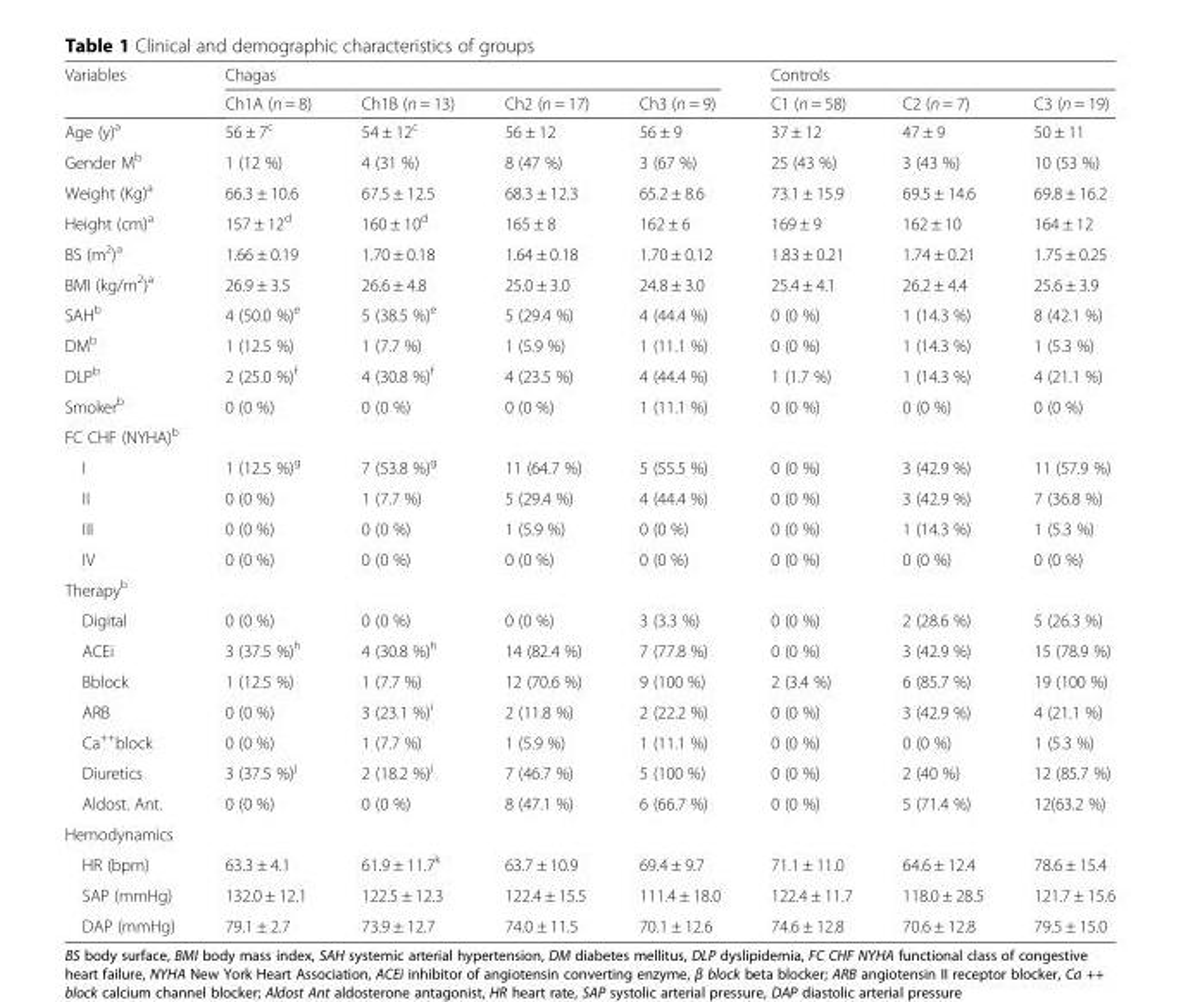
<table><thead><tr><td rowspan="2">Variables</td><td colspan="4">Chagas</td><td colspan="3">Controls</td></tr><tr><td>Ch1A (n = 8)</td><td>Ch1B (n = 13)</td><td>Ch2 (n = 17)</td><td>Ch3 (n = 9)</td><td>C1 (n = 58)</td><td>C2 (n = 7)</td><td>C3 (n = 19)</td></tr></thead><tbody><tr><td>Age (y)<sup>a</sup></td><td>56 ± 7<sup>c</sup></td><td>54 ± 12<sup>c</sup></td><td>56 ± 12</td><td>56 ± 9</td><td>37 ± 12</td><td>47 ± 9</td><td>50 ± 11</td></tr><tr><td>Gender M<sup>b</sup></td><td>1 (12 %)</td><td>4 (31 %)</td><td>8 (47 %)</td><td>3 (67 %)</td><td>25 (43 %)</td><td>3 (43 %)</td><td>10 (53 %)</td></tr><tr><td>Weight (Kg)<sup>a</sup></td><td>66.3 ± 10.6</td><td>67.5 ± 12.5</td><td>68.3 ± 12.3</td><td>65.2 ± 8.6</td><td>73.1 ± 15.9</td><td>69.5 ± 14.6</td><td>69.8 ± 16.2</td></tr><tr><td>Height (cm)<sup>a</sup></td><td>157 ± 12<sup>d</sup></td><td>160 ± 10<sup>d</sup></td><td>165 ± 8</td><td>162 ± 6</td><td>169 ± 9</td><td>162 ± 10</td><td>164 ± 12</td></tr><tr><td>BS (m<sup>2</sup>)<sup>a</sup></td><td>1.66 ± 0.19</td><td>1.70 ± 0.18</td><td>1.64 ± 0.18</td><td>1.70 ± 0.12</td><td>1.83 ± 0.21</td><td>1.74 ± 0.21</td><td>1.75 ± 0.25</td></tr><tr><td>BMI (kg/m<sup>2</sup>)<sup>a</sup></td><td>26.9 ± 3.5</td><td>26.6 ± 4.8</td><td>25.0 ± 3.0</td><td>24.8 ± 3.0</td><td>25.4 ± 4.1</td><td>26.2 ± 4.4</td><td>25.6 ± 3.9</td></tr><tr><td>SAH<sup>b</sup></td><td>4 (50.0 %)<sup>e</sup></td><td>5 (38.5 %)<sup>e</sup></td><td>5 (29.4 %)</td><td>4 (44.4 %)</td><td>0 (0 %)</td><td>1 (14.3 %)</td><td>8 (42.1 %)</td></tr><tr><td>DM<sup>b</sup></td><td>1 (12.5 %)</td><td>1 (7.7 %)</td><td>1 (5.9 %)</td><td>1 (11.1 %)</td><td>0 (0 %)</td><td>1 (14.3 %)</td><td>1 (5.3 %)</td></tr><tr><td>DLP<sup>b</sup></td><td>2 (25.0 %)<sup>f</sup></td><td>4 (30.8 %)<sup>f</sup></td><td>4 (23.5 %)</td><td>4 (44.4 %)</td><td>1 (1.7 %)</td><td>1 (14.3 %)</td><td>4 (21.1 %)</td></tr><tr><td>Smoker<sup>b</sup></td><td>0 (0 %)</td><td>0 (0 %)</td><td>0 (0 %)</td><td>1 (11.1 %)</td><td>0 (0 %)</td><td>0 (0 %)</td><td>0 (0 %)</td></tr><tr><td colspan="8">FC CHF (NYHA)<sup>b</sup></td></tr><tr><td>I</td><td>1 (12.5 %)<sup>g</sup></td><td>7 (53.8 %)<sup>g</sup></td><td>11 (64.7 %)</td><td>5 (55.5 %)</td><td>0 (0 %)</td><td>3 (42.9 %)</td><td>11 (57.9 %)</td></tr><tr><td>II</td><td>0 (0 %)</td><td>1 (7.7 %)</td><td>5 (29.4 %)</td><td>4 (44.4 %)</td><td>0 (0 %)</td><td>3 (42.9 %)</td><td>7 (36.8 %)</td></tr><tr><td>III</td><td>0 (0 %)</td><td>0 (0 %)</td><td>1 (5.9 %)</td><td>0 (0 %)</td><td>0 (0 %)</td><td>1 (14.3 %)</td><td>1 (5.3 %)</td></tr><tr><td>IV</td><td>0 (0 %)</td><td>0 (0 %)</td><td>0 (0 %)</td><td>0 (0 %)</td><td>0 (0 %)</td><td>0 (0 %)</td><td>0 (0 %)</td></tr><tr><td colspan="8">Therapy<sup>b</sup></td></tr><tr><td>Digital</td><td>0 (0 %)</td><td>0 (0 %)</td><td>0 (0 %)</td><td>3 (3.3 %)</td><td>0 (0 %)</td><td>2 (28.6 %)</td><td>5 (26.3 %)</td></tr><tr><td>ACEi</td><td>3 (37.5 %)<sup>h</sup></td><td>4 (30.8 %)<sup>h</sup></td><td>14 (82.4 %)</td><td>7 (77.8 %)</td><td>0 (0 %)</td><td>3 (42.9 %)</td><td>15 (78.9 %)</td></tr><tr><td>Bblock</td><td>1 (12.5 %)</td><td>1 (7.7 %)</td><td>12 (70.6 %)</td><td>9 (100 %)</td><td>2 (3.4 %)</td><td>6 (85.7 %)</td><td>19 (100 %)</td></tr><tr><td>ARB</td><td>0 (0 %)</td><td>3 (23.1 %)<sup>i</sup></td><td>2 (11.8 %)</td><td>2 (22.2 %)</td><td>0 (0 %)</td><td>3 (42.9 %)</td><td>4 (21.1 %)</td></tr><tr><td>Ca<sup>++</sup>block</td><td>0 (0 %)</td><td>1 (7.7 %)</td><td>1 (5.9 %)</td><td>1 (11.1 %)</td><td>0 (0 %)</td><td>0 (0 %)</td><td>1 (5.3 %)</td></tr><tr><td>Diuretics</td><td>3 (37.5 %)<sup>j</sup></td><td>2 (18.2 %)<sup>j</sup></td><td>7 (46.7 %)</td><td>5 (100 %)</td><td>0 (0 %)</td><td>2 (40 %)</td><td>12 (85.7 %)</td></tr><tr><td>Aldost. Ant.</td><td>0 (0 %)</td><td>0 (0 %)</td><td>8 (47.1 %)</td><td>6 (66.7 %)</td><td>0 (0 %)</td><td>5 (71.4 %)</td><td>12(63.2 %)</td></tr><tr><td colspan="8">Hemodynamics</td></tr><tr><td>HR (bpm)</td><td>63.3 ± 4.1</td><td>61.9 ± 11.7<sup>k</sup></td><td>63.7 ± 10.9</td><td>69.4 ± 9.7</td><td>71.1 ± 11.0</td><td>64.6 ± 12.4</td><td>78.6 ± 15.4</td></tr><tr><td>SAP (mmHg)</td><td>132.0 ± 12.1</td><td>122.5 ± 12.3</td><td>122.4 ± 15.5</td><td>111.4 ± 18.0</td><td>122.4 ± 11.7</td><td>118.0 ± 28.5</td><td>121.7 ± 15.6</td></tr><tr><td>DAP (mmHg)</td><td>79.1 ± 2.7</td><td>73.9 ± 12.7</td><td>74.0 ± 11.5</td><td>70.1 ± 12.6</td><td>74.6 ± 12.8</td><td>70.6 ± 12.8</td><td>79.5 ± 15.0</td></tr></tbody></table>